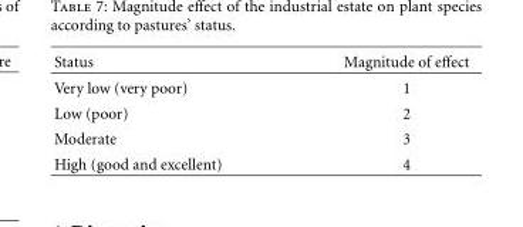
<table><thead><tr><td>Status</td><td>Magnitude of effect</td></tr></thead><tbody><tr><td>Very low (very poor)</td><td>1</td></tr><tr><td>Low (poor)</td><td>2</td></tr><tr><td>Moderate</td><td>3</td></tr><tr><td>High (good and excellent)</td><td>4</td></tr></tbody></table>